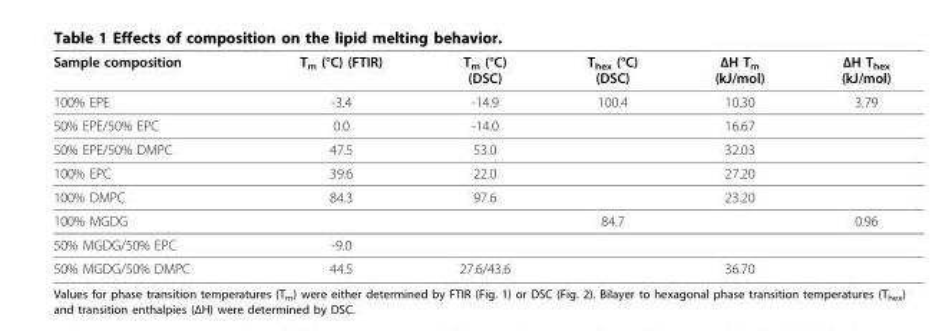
<table><thead><tr><td>Sample composition</td><td>T<sub>m</sub> (°C) (FTIR)</td><td>T<sub>m</sub> (°C) (DSC)</td><td>T<sub>hex</sub> (°C) (DSC)</td><td>ΔH T<sub>m</sub> (kJ/mol)</td><td>ΔH T<sub>hex</sub> (kJ/mol)</td></tr></thead><tbody><tr><td>100% EPE</td><td>-3.4</td><td>-14.9</td><td>100.4</td><td>10.30</td><td>3.79</td></tr><tr><td>50% EPE/50% EPC</td><td>0.0</td><td>-14.0</td><td></td><td>16.67</td><td></td></tr><tr><td>50% EPE/50% DMPC</td><td>47.5</td><td>53.0</td><td></td><td>32.03</td><td></td></tr><tr><td>100% EPC</td><td>39.6</td><td>22.0</td><td></td><td>27.20</td><td></td></tr><tr><td>100% DMPC</td><td>84.3</td><td>97.6</td><td></td><td>23.20</td><td></td></tr><tr><td>100% MGDG</td><td></td><td></td><td>84.7</td><td></td><td>0.96</td></tr><tr><td>50% MGDG/50% EPC</td><td>-9.0</td><td></td><td></td><td></td><td></td></tr><tr><td>50% MGDG/50% DMPC</td><td>44.5</td><td>27.6/43.6</td><td></td><td>36.70</td><td></td></tr></tbody></table>